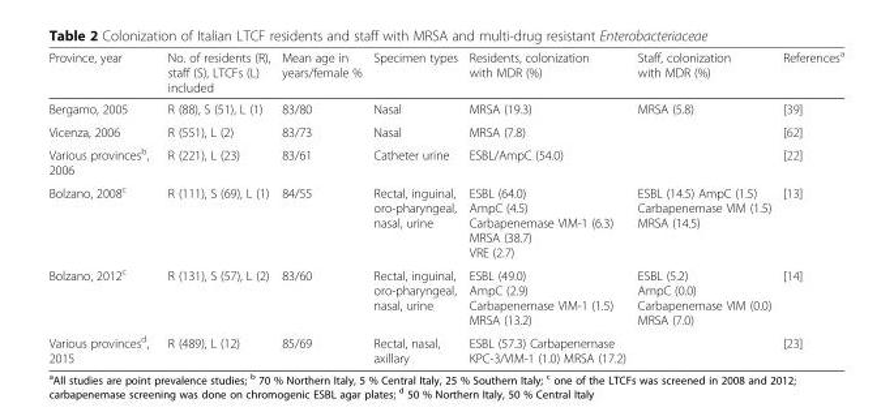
<table><thead><tr><td>Province, year</td><td>No. of residents (R), staff (S), LTCFs (L) included</td><td>Mean age in years/female %</td><td>Specimen types</td><td>Residents, colonization with MDR (%)</td><td>Staff, colonization with MDR (%)</td><td>References<sup>a</sup></td></tr></thead><tbody><tr><td>Bergamo, 2005</td><td>R (88), S (51), L (1)</td><td>83/80</td><td>Nasal</td><td>MRSA (19.3)</td><td>MRSA (5.8)</td><td>[39]</td></tr><tr><td>Vicenza, 2006</td><td>R (551), L (2)</td><td>83/73</td><td>Nasal</td><td>MRSA (7.8)</td><td></td><td>[62]</td></tr><tr><td>Various provinces<sup>b</sup>, 2006</td><td>R (221), L (23)</td><td>83/61</td><td>Catheter urine</td><td>ESBL/AmpC (54.0)</td><td></td><td>[22]</td></tr><tr><td>Bolzano, 2008<sup>c</sup></td><td>R (111), S (69), L (1)</td><td>84/55</td><td>Rectal, inguinal, oro-pharyngeal, nasal, urine</td><td>ESBL (64.0) AmpC (4.5) Carbapenemase VIM-1 (6.3) MRSA (38.7) VRE (2.7)</td><td>ESBL (14.5) AmpC (1.5) Carbapenemase VIM (1.5) MRSA (14.5)</td><td>[13]</td></tr><tr><td>Bolzano, 2012<sup>c</sup></td><td>R (131), S (57), L (2)</td><td>83/60</td><td>Rectal, inguinal, oro-pharyngeal, nasal, urine</td><td>ESBL (49.0) AmpC (2.9) Carbapenemase VIM-1 (1.5) MRSA (13.2)</td><td>ESBL (5.2) AmpC (0.0) Carbapenemase VIM (0.0) MRSA (7.0)</td><td>[14]</td></tr><tr><td>Various provinces<sup>d</sup>, 2015</td><td>R (489), L (12)</td><td>85/69</td><td>Rectal, nasal, axillary</td><td>ESBL (57.3) Carbapenemase KPC-3/VIM-1 (1.0) MRSA (17.2)</td><td></td><td>[23]</td></tr></tbody></table>